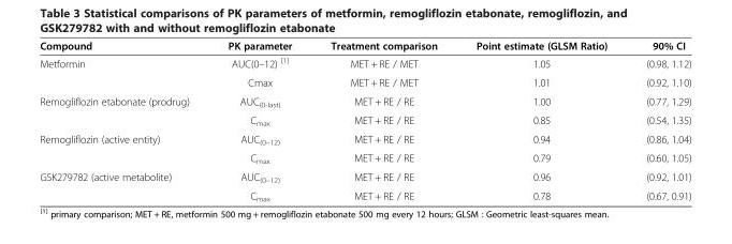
<table><thead><tr><td>Compound</td><td>PK parameter</td><td>Treatment comparison</td><td>Point estimate (GLSM Ratio)</td><td>90% CI</td></tr></thead><tbody><tr><td rowspan="2">Metformin</td><td>AUC(0–12) <sup>[1]</sup></td><td>MET + RE / MET</td><td>1.05</td><td>(0.98, 1.12)</td></tr><tr><td>Cmax</td><td>MET + RE / MET</td><td>1.01</td><td>(0.92, 1.10)</td></tr><tr><td rowspan="2">Remogliflozin etabonate (prodrug)</td><td>AUC<sub>(0-last)</sub></td><td>MET + RE / RE</td><td>1.00</td><td>(0.77, 1.29)</td></tr><tr><td>C<sub>max</sub></td><td>MET + RE / RE</td><td>0.85</td><td>(0.54, 1.35)</td></tr><tr><td rowspan="2">Remogliflozin (active entity)</td><td>AUC<sub>(0–12)</sub></td><td>MET + RE / RE</td><td>0.94</td><td>(0.86, 1.04)</td></tr><tr><td>C<sub>max</sub></td><td>MET + RE / RE</td><td>0.79</td><td>(0.60, 1.05)</td></tr><tr><td rowspan="2">GSK279782 (active metabolite)</td><td>AUC<sub>(0–12)</sub></td><td>MET + RE / RE</td><td>0.96</td><td>(0.92, 1.01)</td></tr><tr><td>C<sub>max</sub></td><td>MET + RE / RE</td><td>0.78</td><td>(0.67, 0.91)</td></tr></tbody></table>